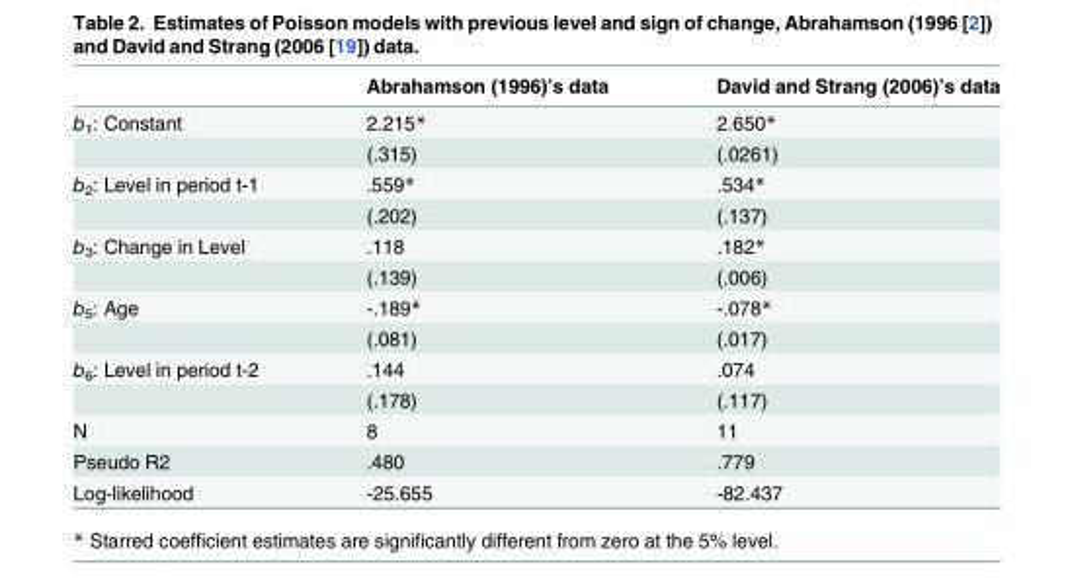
<table><thead><tr><td></td><td>Abrahamson (1996)’s data</td><td>David and Strang (2006)’s data</td></tr></thead><tbody><tr><td rowspan="2">b<sub>1</sub>: Constant</td><td>2.215*</td><td>2.650*</td></tr><tr><td>(.315)</td><td>(.0261)</td></tr><tr><td rowspan="2">b<sub>2</sub>: Level in period t-1</td><td>.559*</td><td>.534*</td></tr><tr><td>(.202)</td><td>(.137)</td></tr><tr><td rowspan="2">b<sub>3</sub>: Change in Level</td><td>.118</td><td>.182*</td></tr><tr><td>(.139)</td><td>(.006)</td></tr><tr><td rowspan="2">b<sub>5</sub>: Age</td><td>-.189*</td><td>-.078*</td></tr><tr><td>(.081)</td><td>(.017)</td></tr><tr><td rowspan="2">b<sub>6</sub>: Level in period t-2</td><td>.144</td><td>.074</td></tr><tr><td>(.178)</td><td>(.117)</td></tr><tr><td>N</td><td>8</td><td>11</td></tr><tr><td>Pseudo R2</td><td>.480</td><td>.779</td></tr><tr><td>Log-likelihood</td><td>-25.655</td><td>-82.437</td></tr></tbody></table>